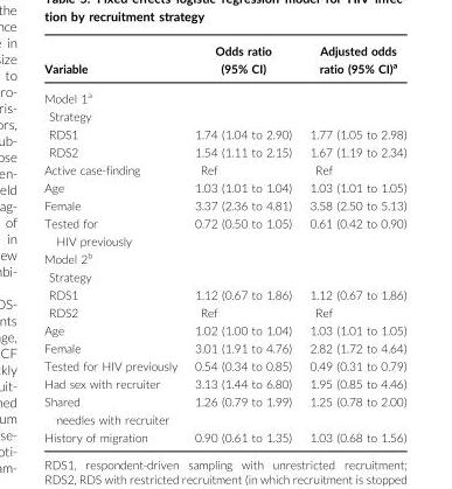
<table><thead><tr><td>Variable</td><td>Odds ratio (95% CI)</td><td>Adjusted odds ratio (95% CI)<sup>a</sup></td></tr></thead><tbody><tr><td colspan="3">Model 1<sup>a</sup></td></tr><tr><td colspan="3">Strategy</td></tr><tr><td>RDS1</td><td>1.74 (1.04 to 2.90)</td><td>1.77 (1.05 to 2.98)</td></tr><tr><td>RDS2</td><td>1.54 (1.11 to 2.15)</td><td>1.67 (1.19 to 2.34)</td></tr><tr><td>Active case-finding</td><td>Ref</td><td>Ref</td></tr><tr><td>Age</td><td>1.03 (1.01 to 1.04)</td><td>1.03 (1.01 to 1.05)</td></tr><tr><td>Female</td><td>3.37 (2.36 to 4.81)</td><td>3.58 (2.50 to 5.13)</td></tr><tr><td>Tested for HIV previously</td><td>0.72 (0.50 to 1.05)</td><td>0.61 (0.42 to 0.90)</td></tr><tr><td colspan="3">Model 2<sup>b</sup></td></tr><tr><td colspan="3">Strategy</td></tr><tr><td>RDS1</td><td>1.12 (0.67 to 1.86)</td><td>1.12 (0.67 to 1.86)</td></tr><tr><td>RDS2</td><td>Ref</td><td>Ref</td></tr><tr><td>Age</td><td>1.02 (1.00 to 1.04)</td><td>1.03 (1.01 to 1.05)</td></tr><tr><td>Female</td><td>3.01 (1.91 to 4.76)</td><td>2.82 (1.72 to 4.64)</td></tr><tr><td>Tested for HIV previously</td><td>0.54 (0.34 to 0.85)</td><td>0.49 (0.31 to 0.79)</td></tr><tr><td>Had sex with recruiter</td><td>3.13 (1.44 to 6.80)</td><td>1.95 (0.85 to 4.46)</td></tr><tr><td>Shared needles with recruiter</td><td>1.26 (0.79 to 1.99)</td><td>1.25 (0.78 to 2.00)</td></tr><tr><td>History of migration</td><td>0.90 (0.61 to 1.35)</td><td>1.03 (0.68 to 1.56)</td></tr></tbody></table>